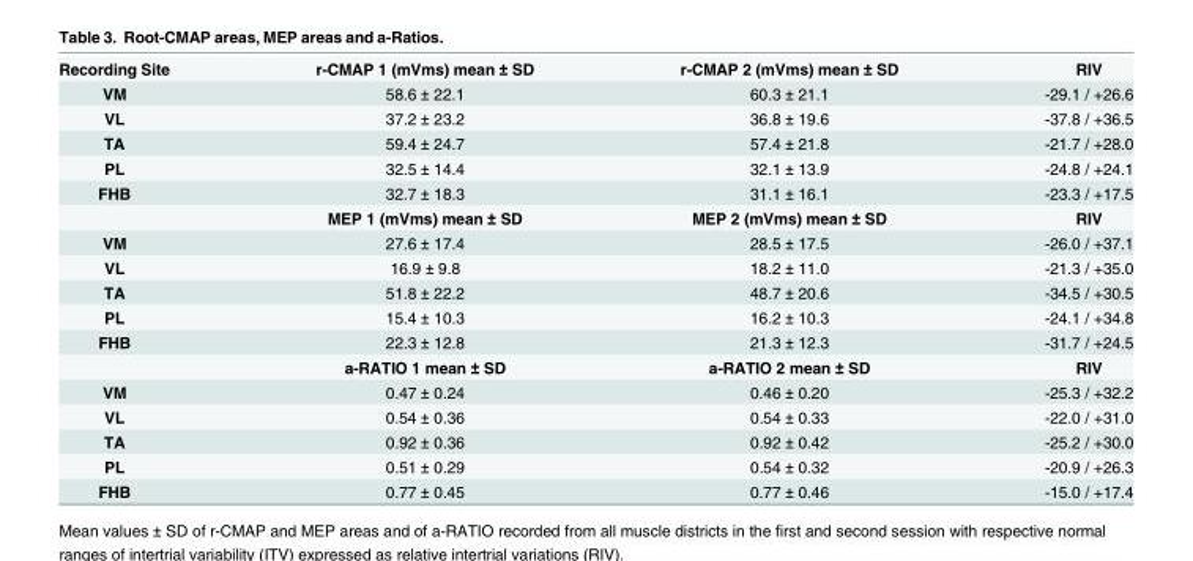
<table><tbody><tr><td>Recording Site</td><td>r-CMAP 1 (mVms) mean ± SD</td><td>r-CMAP 2 (mVms) mean ± SD</td><td>RIV</td></tr><tr><td>VM</td><td>58.6 ± 22.1</td><td>60.3 ± 21.1</td><td>-29.1 / +26.6</td></tr><tr><td>VL</td><td>37.2 ± 23.2</td><td>36.8 ± 19.6</td><td>-37.8 / +36.5</td></tr><tr><td>TA</td><td>59.4 ± 24.7</td><td>57.4 ± 21.8</td><td>-21.7 / +28.0</td></tr><tr><td>PL</td><td>32.5 ± 14.4</td><td>32.1 ± 13.9</td><td>-24.8 / +24.1</td></tr><tr><td rowspan="2">FHB</td><td>32.7 ± 18.3</td><td>31.1 ± 16.1</td><td>-23.3 / +17.5</td></tr><tr><td>MEP 1 (mVms) mean ± SD</td><td>MEP 2 (mVms) mean ± SD</td><td>RIV</td></tr><tr><td>VM</td><td>27.6 ± 17.4</td><td>28.5 ± 17.5</td><td>-26.0 / +37.1</td></tr><tr><td>VL</td><td>16.9 ± 9.8</td><td>18.2 ± 11.0</td><td>-21.3 / +35.0</td></tr><tr><td>TA</td><td>51.8 ± 22.2</td><td>48.7 ± 20.6</td><td>-34.5 / +30.5</td></tr><tr><td>PL</td><td>15.4 ± 10.3</td><td>16.2 ± 10.3</td><td>-24.1 / +34.8</td></tr><tr><td rowspan="2">FHB</td><td>22.3 ± 12.8</td><td>21.3 ± 12.3</td><td>-31.7 / +24.5</td></tr><tr><td>a-RATIO 1 mean ± SD</td><td>a-RATIO 2 mean ± SD</td><td>RIV</td></tr><tr><td>VM</td><td>0.47 ± 0.24</td><td>0.46 ± 0.20</td><td>-25.3 / +32.2</td></tr><tr><td>VL</td><td>0.54 ± 0.36</td><td>0.54 ± 0.33</td><td>-22.0 / +31.0</td></tr><tr><td>TA</td><td>0.92 ± 0.36</td><td>0.92 ± 0.42</td><td>-25.2 / +30.0</td></tr><tr><td>PL</td><td>0.51 ± 0.29</td><td>0.54 ± 0.32</td><td>-20.9 / +26.3</td></tr><tr><td>FHB</td><td>0.77 ± 0.45</td><td>0.77 ± 0.46</td><td>-15.0 / +17.4</td></tr></tbody></table>